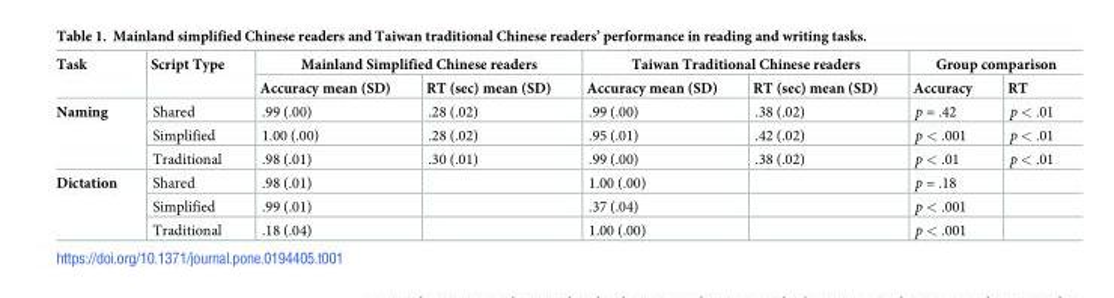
<table><thead><tr><td rowspan="2">Task</td><td rowspan="2">Script Type</td><td colspan="2">Mainland Simplified Chinese readers</td><td colspan="2">Taiwan Traditional Chinese readers</td><td colspan="2">Group comparison</td></tr><tr><td>Accuracy mean (SD)</td><td>RT (sec) mean (SD)</td><td>Accuracy mean (SD)</td><td>RT (sec) mean (SD)</td><td>Accuracy</td><td>RT</td></tr></thead><tbody><tr><td rowspan="3">Naming</td><td>Shared</td><td>.99 (.00)</td><td>.28 (.02)</td><td>.99 (.00)</td><td>.38 (.02)</td><td>p = .42</td><td>p &lt; .01</td></tr><tr><td>Simplified</td><td>1.00 (.00)</td><td>.28 (.02)</td><td>.95 (.01)</td><td>.42 (.02)</td><td>p &lt; .001</td><td>p &lt; .01</td></tr><tr><td>Traditional</td><td>.98 (.01)</td><td>.30 (.01)</td><td>.99 (.00)</td><td>.38 (.02)</td><td>p &lt; .01</td><td>p &lt; .01</td></tr><tr><td rowspan="3">Dictation</td><td>Shared</td><td>.98 (.01)</td><td></td><td>1.00 (.00)</td><td></td><td>p = .18</td><td></td></tr><tr><td>Simplified</td><td>.99 (.01)</td><td></td><td>.37 (.04)</td><td></td><td>p &lt; .001</td><td></td></tr><tr><td>Traditional</td><td>.18 (.04)</td><td></td><td>1.00 (.00)</td><td></td><td>p &lt; .001</td><td></td></tr></tbody></table>